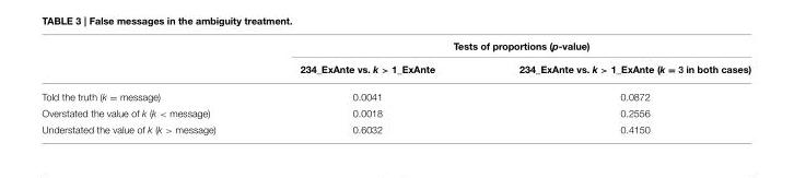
<table><thead><tr><td rowspan="2"></td><td colspan="2">Tests of proportions (p-value)</td></tr><tr><td>234_ExAnte vs. k &gt; 1_ExAnte</td><td>234_ExAnte vs. k &gt; 1_ExAnte (k = 3 in both cases)</td></tr></thead><tbody><tr><td>Told the truth (k = message)</td><td>0.0041</td><td>0.0872</td></tr><tr><td>Overstated the value of k (k &lt; message)</td><td>0.0018</td><td>0.2556</td></tr><tr><td>Understated the value of k (k &gt; message)</td><td>0.6032</td><td>0.4150</td></tr></tbody></table>